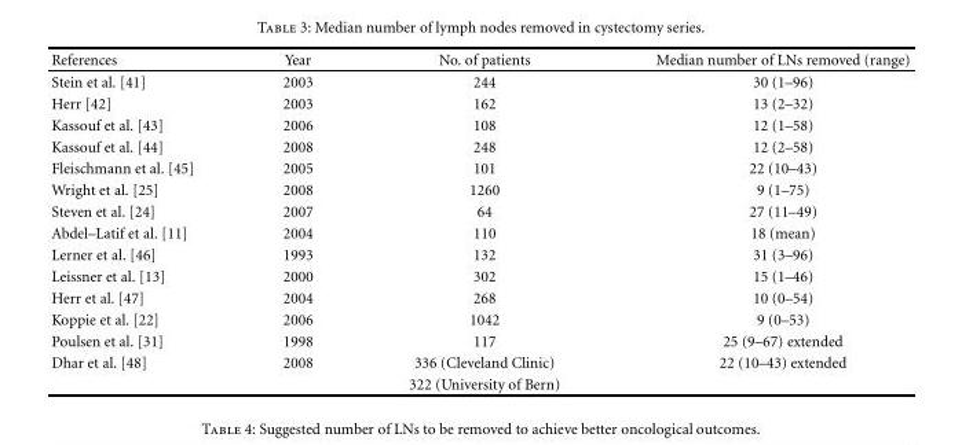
<table><thead><tr><td>References</td><td>Year</td><td>No. of patients</td><td>Median number of LNs removed (range)</td></tr></thead><tbody><tr><td>Stein et al. [41]</td><td>2003</td><td>244</td><td>30 (1–96)</td></tr><tr><td>Herr [42]</td><td>2003</td><td>162</td><td>13 (2–32)</td></tr><tr><td>Kassouf et al. [43]</td><td>2006</td><td>108</td><td>12 (1–58)</td></tr><tr><td>Kassouf et al. [44]</td><td>2008</td><td>248</td><td>12 (2–58)</td></tr><tr><td>Fleischmann et al. [45]</td><td>2005</td><td>101</td><td>22 (10–43)</td></tr><tr><td>Wright et al. [25]</td><td>2008</td><td>1260</td><td>9 (1–75)</td></tr><tr><td>Steven et al. [24]</td><td>2007</td><td>64</td><td>27 (11–49)</td></tr><tr><td>Abdel–Latif et al. [11]</td><td>2004</td><td>110</td><td>18 (mean)</td></tr><tr><td>Lerner et al. [46]</td><td>1993</td><td>132</td><td>31 (3–96)</td></tr><tr><td>Leissner et al. [13]</td><td>2000</td><td>302</td><td>15 (1–46)</td></tr><tr><td>Herr et al. [47]</td><td>2004</td><td>268</td><td>10 (0–54)</td></tr><tr><td>Koppie et al. [22]</td><td>2006</td><td>1042</td><td>9 (0–53)</td></tr><tr><td>Poulsen et al. [31]</td><td>1998</td><td>117</td><td>25 (9–67) extended</td></tr><tr><td rowspan="2">Dhar et al. [48]</td><td>2008</td><td>336 (Cleveland Clinic)</td><td>22 (10–43) extended</td></tr><tr><td></td><td>322 (University of Bern)</td><td></td></tr></tbody></table>